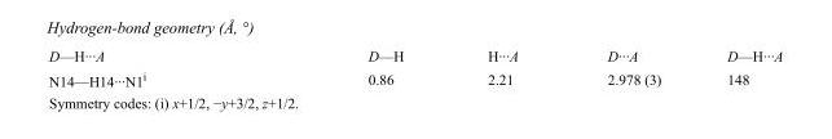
<table><tbody><tr><td>D—H···A</td><td>D—H</td><td>H···A</td><td>D···A</td><td>D—H···A</td></tr><tr><td>N14—H14···N1<sup>i</sup></td><td>0.86</td><td>2.21</td><td>2.978 (3)</td><td>148</td></tr></tbody></table>